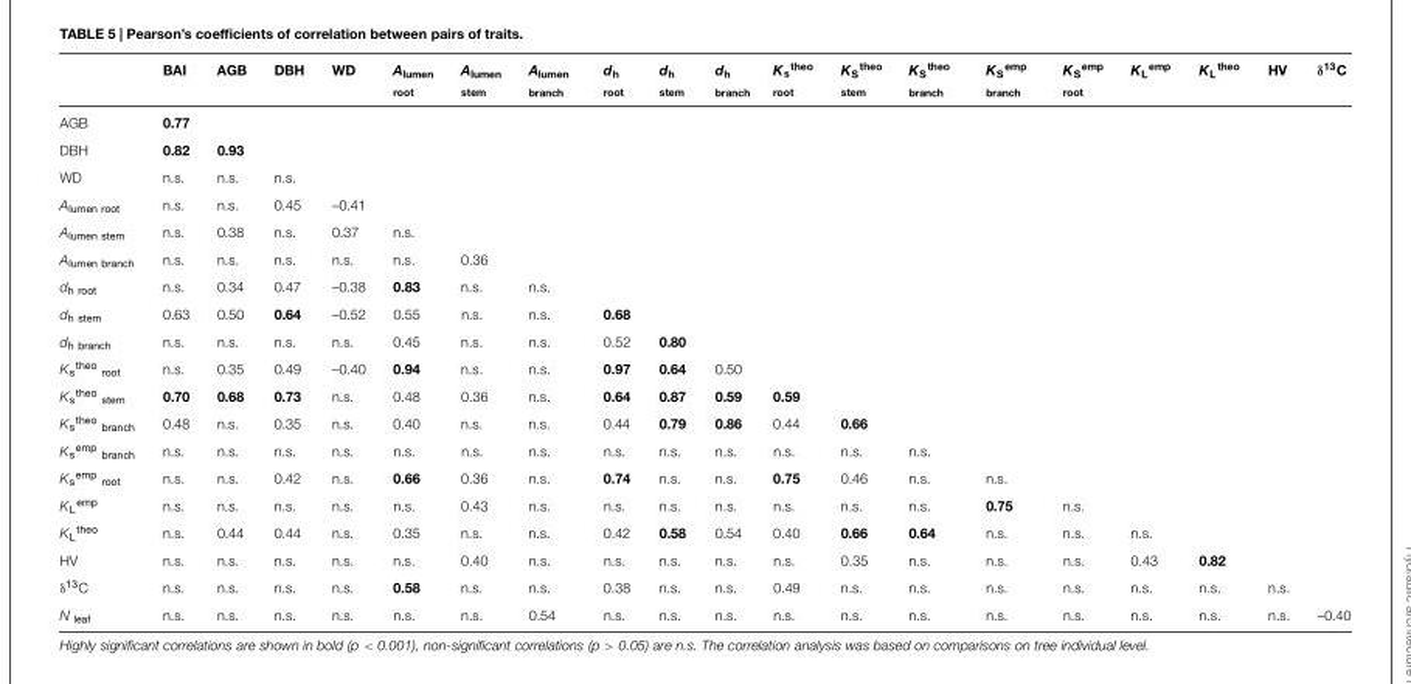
<table><thead><tr><td></td><td>BAI</td><td>AGB</td><td>DBH</td><td>WD</td><td>A<sub>lumen root</sub></td><td>A<sub>lumen stem</sub></td><td>A<sub>lumen branch</sub></td><td>d<sub>h root</sub></td><td>d<sub>h stem</sub></td><td>d<sub>h branch</sub></td><td>K<sub>s</sub><sup>theo</sup> <sub>root</sub></td><td>K<sub>S</sub><sup>theo</sup> <sub>stem</sub></td><td>K<sub>S</sub><sup>theo</sup> <sub>branch</sub></td><td>K<sub>S</sub><sup>emp</sup> <sub>branch</sub></td><td>K<sub>S</sub><sup>emp</sup> <sub>root</sub></td><td>K<sub>L</sub><sup>emp</sup></td><td>K<sub>L</sub><sup>theo</sup></td><td>HV</td><td>δ<sup>13</sup>C</td></tr></thead><tbody><tr><td>AGB</td><td>0.77</td><td></td><td></td><td></td><td></td><td></td><td></td><td></td><td></td><td></td><td></td><td></td><td></td><td></td><td></td><td></td><td></td><td></td><td></td></tr><tr><td>DBH</td><td>0.82</td><td>0.93</td><td></td><td></td><td></td><td></td><td></td><td></td><td></td><td></td><td></td><td></td><td></td><td></td><td></td><td></td><td></td><td></td><td></td></tr><tr><td>WD</td><td>n.s.</td><td>n.s.</td><td>n.s.</td><td></td><td></td><td></td><td></td><td></td><td></td><td></td><td></td><td></td><td></td><td></td><td></td><td></td><td></td><td></td><td></td></tr><tr><td>A<sub>lumen root</sub></td><td>n.s.</td><td>n.s.</td><td>0.45</td><td>–0.41</td><td></td><td></td><td></td><td></td><td></td><td></td><td></td><td></td><td></td><td></td><td></td><td></td><td></td><td></td><td></td></tr><tr><td>A<sub>lumen stem</sub></td><td>n.s.</td><td>0.38</td><td>n.s.</td><td>0.37</td><td>n.s.</td><td></td><td></td><td></td><td></td><td></td><td></td><td></td><td></td><td></td><td></td><td></td><td></td><td></td><td></td></tr><tr><td>A<sub>lumen branch</sub></td><td>n.s.</td><td>n.s.</td><td>n.s.</td><td>n.s.</td><td>n.s.</td><td>0.36</td><td></td><td></td><td></td><td></td><td></td><td></td><td></td><td></td><td></td><td></td><td></td><td></td><td></td></tr><tr><td>d<sub>h root</sub></td><td>n.s.</td><td>0.34</td><td>0.47</td><td>–0.38</td><td>0.83</td><td>n.s.</td><td>n.s.</td><td></td><td></td><td></td><td></td><td></td><td></td><td></td><td></td><td></td><td></td><td></td><td></td></tr><tr><td>d<sub>h stem</sub></td><td>0.63</td><td>0.50</td><td>0.64</td><td>–0.52</td><td>0.55</td><td>n.s.</td><td>n.s.</td><td>0.68</td><td></td><td></td><td></td><td></td><td></td><td></td><td></td><td></td><td></td><td></td><td></td></tr><tr><td>d<sub>h branch</sub></td><td>n.s.</td><td>n.s.</td><td>n.s.</td><td>n.s.</td><td>0.45</td><td>n.s.</td><td>n.s.</td><td>0.52</td><td>0.80</td><td></td><td></td><td></td><td></td><td></td><td></td><td></td><td></td><td></td><td></td></tr><tr><td>K<sub>s</sub><sup>theo</sup> <sub>root</sub></td><td>n.s.</td><td>0.35</td><td>0.49</td><td>–0.40</td><td>0.94</td><td>n.s.</td><td>n.s.</td><td>0.97</td><td>0.64</td><td>0.50</td><td></td><td></td><td></td><td></td><td></td><td></td><td></td><td></td><td></td></tr><tr><td>K<sub>s</sub><sup>theo</sup> <sub>stem</sub></td><td>0.70</td><td>0.68</td><td>0.73</td><td>n.s.</td><td>0.48</td><td>0.36</td><td>n.s.</td><td>0.64</td><td>0.87</td><td>0.59</td><td>0.59</td><td></td><td></td><td></td><td></td><td></td><td></td><td></td><td></td></tr><tr><td>K<sub>s</sub><sup>theo</sup> <sub>branch</sub></td><td>0.48</td><td>n.s.</td><td>0.35</td><td>n.s.</td><td>0.40</td><td>n.s.</td><td>n.s.</td><td>0.44</td><td>0.79</td><td>0.86</td><td>0.44</td><td>0.66</td><td></td><td></td><td></td><td></td><td></td><td></td><td></td></tr><tr><td>K<sub>s</sub><sup>emp</sup> <sub>branch</sub></td><td>n.s.</td><td>n.s.</td><td>n.s.</td><td>n.s.</td><td>n.s.</td><td>n.s.</td><td>n.s.</td><td>n.s.</td><td>n.s.</td><td>n.s.</td><td>n.s.</td><td>n.s.</td><td>n.s.</td><td></td><td></td><td></td><td></td><td></td><td></td></tr><tr><td>K<sub>s</sub><sup>emp</sup> <sub>root</sub></td><td>n.s.</td><td>n.s.</td><td>0.42</td><td>n.s.</td><td>0.66</td><td>0.36</td><td>n.s.</td><td>0.74</td><td>n.s.</td><td>n.s.</td><td>0.75</td><td>0.46</td><td>n.s.</td><td>n.s.</td><td></td><td></td><td></td><td></td><td></td></tr><tr><td>K<sub>L</sub><sup>emp</sup></td><td>n.s.</td><td>n.s.</td><td>n.s.</td><td>n.s.</td><td>n.s.</td><td>0.43</td><td>n.s.</td><td>n.s.</td><td>n.s.</td><td>n.s.</td><td>n.s.</td><td>n.s.</td><td>n.s.</td><td>0.75</td><td>n.s.</td><td></td><td></td><td></td><td></td></tr><tr><td>K<sub>L</sub><sup>theo</sup></td><td>n.s.</td><td>0.44</td><td>0.44</td><td>n.s.</td><td>0.35</td><td>n.s.</td><td>n.s.</td><td>0.42</td><td>0.58</td><td>0.54</td><td>0.40</td><td>0.66</td><td>0.64</td><td>n.s.</td><td>n.s.</td><td>n.s.</td><td></td><td></td><td></td></tr><tr><td>HV</td><td>n.s.</td><td>n.s.</td><td>n.s.</td><td>n.s.</td><td>n.s.</td><td>0.40</td><td>n.s.</td><td>n.s.</td><td>n.s.</td><td>n.s.</td><td>n.s.</td><td>0.35</td><td>n.s.</td><td>n.s.</td><td>n.s.</td><td>0.43</td><td>0.82</td><td></td><td></td></tr><tr><td>δ<sup>13</sup>C</td><td>n.s.</td><td>n.s.</td><td>n.s.</td><td>n.s.</td><td>0.58</td><td>n.s.</td><td>n.s.</td><td>0.38</td><td>n.s.</td><td>n.s.</td><td>0.49</td><td>n.s.</td><td>n.s.</td><td>n.s.</td><td>n.s.</td><td>n.s.</td><td>n.s.</td><td>n.s.</td><td></td></tr><tr><td>N <sub>leaf</sub></td><td>n.s.</td><td>n.s.</td><td>n.s.</td><td>n.s.</td><td>n.s.</td><td>n.s.</td><td>0.54</td><td>n.s.</td><td>n.s.</td><td>n.s.</td><td>n.s.</td><td>n.s.</td><td>n.s.</td><td>n.s.</td><td>n.s.</td><td>n.s.</td><td>n.s.</td><td>n.s.</td><td>–0.40</td></tr></tbody></table>